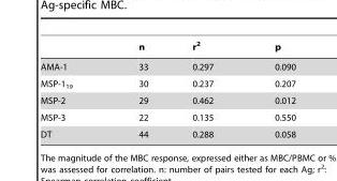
<table><thead><tr><td></td><td>n</td><td>r<sup>2</sup></td><td>p</td></tr></thead><tbody><tr><td>AMA-1</td><td>33</td><td>0.297</td><td>0.090</td></tr><tr><td>MSP-1<sub>19</sub></td><td>30</td><td>0.237</td><td>0.207</td></tr><tr><td>MSP-2</td><td>29</td><td>0.462</td><td>0.012</td></tr><tr><td>MSP-3</td><td>22</td><td>0.135</td><td>0.550</td></tr><tr><td>DT</td><td>44</td><td>0.288</td><td>0.058</td></tr></tbody></table>